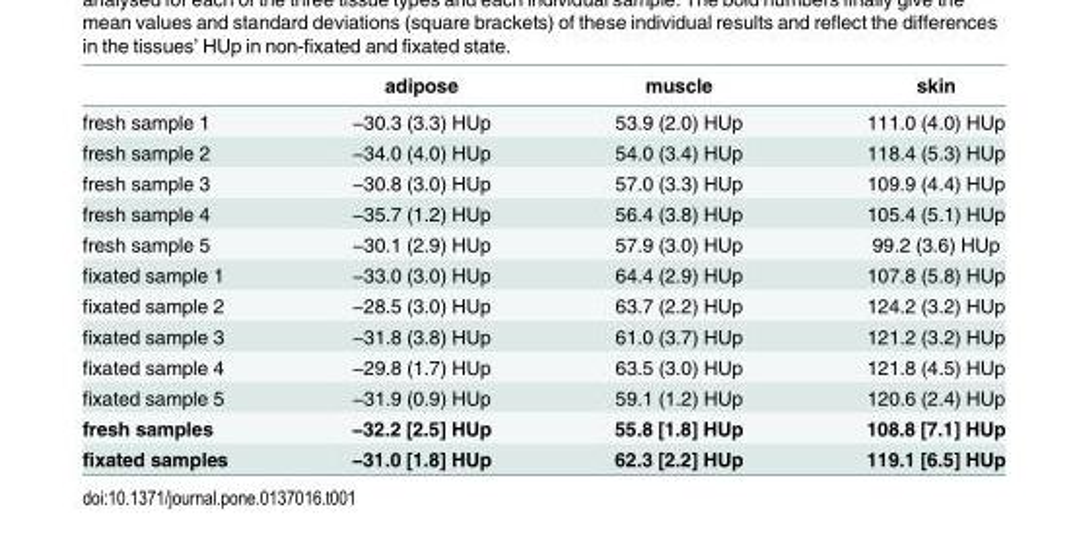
<table><thead><tr><td></td><td>adipose</td><td>muscle</td><td>skin</td></tr></thead><tbody><tr><td>fresh sample 1</td><td>−30.3 (3.3) HUp</td><td>53.9 (2.0) HUp</td><td>111.0 (4.0) HUp</td></tr><tr><td>fresh sample 2</td><td>−34.0 (4.0) HUp</td><td>54.0 (3.4) HUp</td><td>118.4 (5.3) HUp</td></tr><tr><td>fresh sample 3</td><td>−30.8 (3.0) HUp</td><td>57.0 (3.3) HUp</td><td>109.9 (4.4) HUp</td></tr><tr><td>fresh sample 4</td><td>−35.7 (1.2) HUp</td><td>56.4 (3.8) HUp</td><td>105.4 (5.1) HUp</td></tr><tr><td>fresh sample 5</td><td>−30.1 (2.9) HUp</td><td>57.9 (3.0) HUp</td><td>99.2 (3.6) HUp</td></tr><tr><td>fixated sample 1</td><td>−33.0 (3.0) HUp</td><td>64.4 (2.9) HUp</td><td>107.8 (5.8) HUp</td></tr><tr><td>fixated sample 2</td><td>−28.5 (3.0) HUp</td><td>63.7 (2.2) HUp</td><td>124.2 (3.2) HUp</td></tr><tr><td>fixated sample 3</td><td>−31.8 (3.8) HUp</td><td>61.0 (3.7) HUp</td><td>121.2 (3.2) HUp</td></tr><tr><td>fixated sample 4</td><td>−29.8 (1.7) HUp</td><td>63.5 (3.0) HUp</td><td>121.8 (4.5) HUp</td></tr><tr><td>fixated sample 5</td><td>−31.9 (0.9) HUp</td><td>59.1 (1.2) HUp</td><td>120.6 (2.4) HUp</td></tr><tr><td>fresh samples</td><td>−32.2 [2.5] HUp</td><td>55.8 [1.8] HUp</td><td>108.8 [7.1] HUp</td></tr><tr><td>fixated samples</td><td>−31.0 [1.8] HUp</td><td>62.3 [2.2] HUp</td><td>119.1 [6.5] HUp</td></tr></tbody></table>